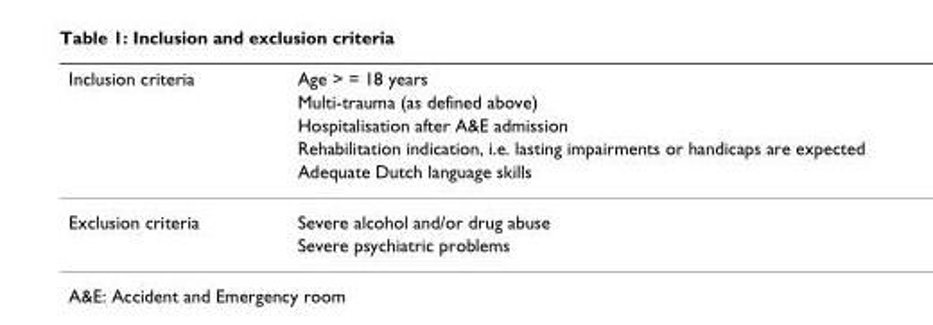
<table><thead><tr><td rowspan="5">Inclusion criteria</td><td rowspan="5">Age &gt; = 18 years Multi-trauma (as defined above) Hospitalisation after A&amp;E admission Rehabilitation indication, i.e. lasting impairments or handicaps are expected Adequate Dutch language skills</td></tr><tr></tr><tr></tr><tr></tr><tr></tr></thead><tbody><tr><td rowspan="2">Exclusion criteria</td><td>Severe alcohol and/or drug abuse</td></tr><tr><td>Severe psychiatric problems</td></tr></tbody></table>